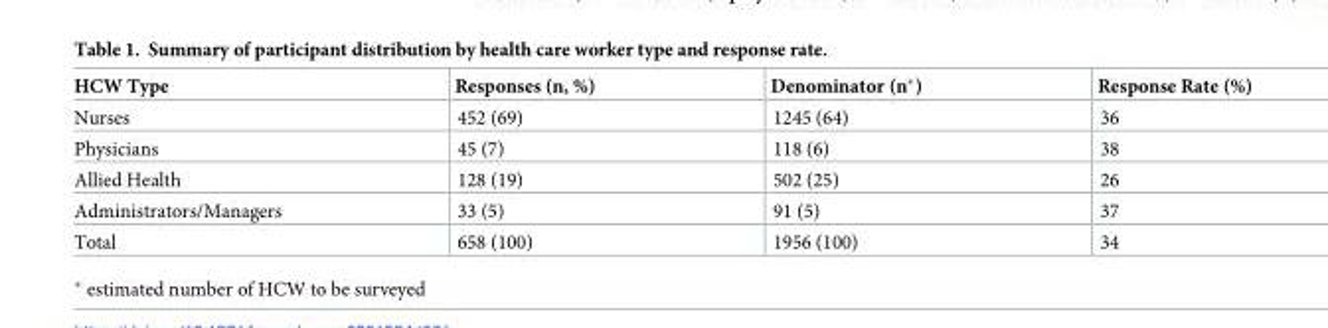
<table><thead><tr><td>HCW Type</td><td>Responses (n, %)</td><td>Denominator (n*)</td><td>Response Rate (%)</td></tr></thead><tbody><tr><td>Nurses</td><td>452 (69)</td><td>1245 (64)</td><td>36</td></tr><tr><td>Physicians</td><td>45 (7)</td><td>118 (6)</td><td>38</td></tr><tr><td>Allied Health</td><td>128 (19)</td><td>502 (25)</td><td>26</td></tr><tr><td>Administrators/Managers</td><td>33 (5)</td><td>91 (5)</td><td>37</td></tr><tr><td>Total</td><td>658 (100)</td><td>1956 (100)</td><td>34</td></tr></tbody></table>